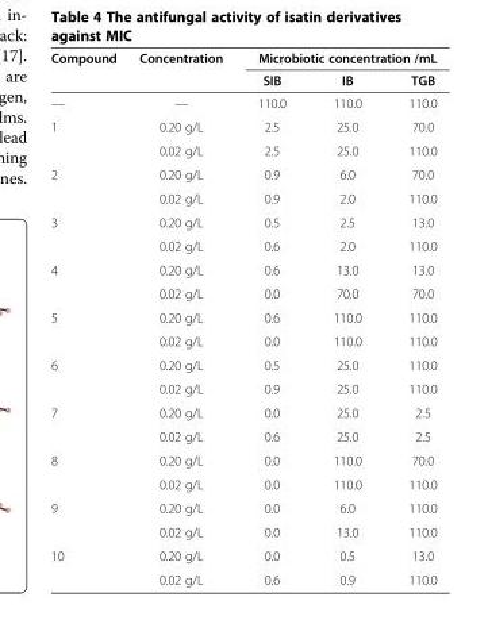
<table><thead><tr><td rowspan="2">Compound</td><td rowspan="2">Concentration</td><td colspan="3">Microbiotic concentration /mL</td></tr><tr><td>SIB</td><td>IB</td><td>TGB</td></tr></thead><tbody><tr><td>—</td><td>—</td><td>110.0</td><td>110.0</td><td>110.0</td></tr><tr><td rowspan="2">1</td><td>0.20 g/L</td><td>2.5</td><td>25.0</td><td>70.0</td></tr><tr><td>0.02 g/L</td><td>2.5</td><td>25.0</td><td>110.0</td></tr><tr><td rowspan="2">2</td><td>0.20 g/L</td><td>0.9</td><td>6.0</td><td>70.0</td></tr><tr><td>0.02 g/L</td><td>0.9</td><td>2.0</td><td>110.0</td></tr><tr><td rowspan="2">3</td><td>0.20 g/L</td><td>0.5</td><td>2.5</td><td>13.0</td></tr><tr><td>0.02 g/L</td><td>0.6</td><td>2.0</td><td>110.0</td></tr><tr><td rowspan="2">4</td><td>0.20 g/L</td><td>0.6</td><td>13.0</td><td>13.0</td></tr><tr><td>0.02 g/L</td><td>0.0</td><td>70.0</td><td>70.0</td></tr><tr><td rowspan="2">5</td><td>0.20 g/L</td><td>0.6</td><td>110.0</td><td>110.0</td></tr><tr><td>0.02 g/L</td><td>0.0</td><td>110.0</td><td>110.0</td></tr><tr><td rowspan="2">6</td><td>0.20 g/L</td><td>0.5</td><td>25.0</td><td>110.0</td></tr><tr><td>0.02 g/L</td><td>0.9</td><td>25.0</td><td>110.0</td></tr><tr><td rowspan="2">7</td><td>0.20 g/L</td><td>0.0</td><td>25.0</td><td>2.5</td></tr><tr><td>0.02 g/L</td><td>0.6</td><td>25.0</td><td>2.5</td></tr><tr><td rowspan="2">8</td><td>0.20 g/L</td><td>0.0</td><td>110.0</td><td>70.0</td></tr><tr><td>0.02 g/L</td><td>0.0</td><td>110.0</td><td>110.0</td></tr><tr><td rowspan="2">9</td><td>0.20 g/L</td><td>0.0</td><td>6.0</td><td>110.0</td></tr><tr><td>0.02 g/L</td><td>0.0</td><td>13.0</td><td>110.0</td></tr><tr><td rowspan="2">10</td><td>0.20 g/L</td><td>0.0</td><td>0.5</td><td>13.0</td></tr><tr><td>0.02 g/L</td><td>0.6</td><td>0.9</td><td>110.0</td></tr></tbody></table>